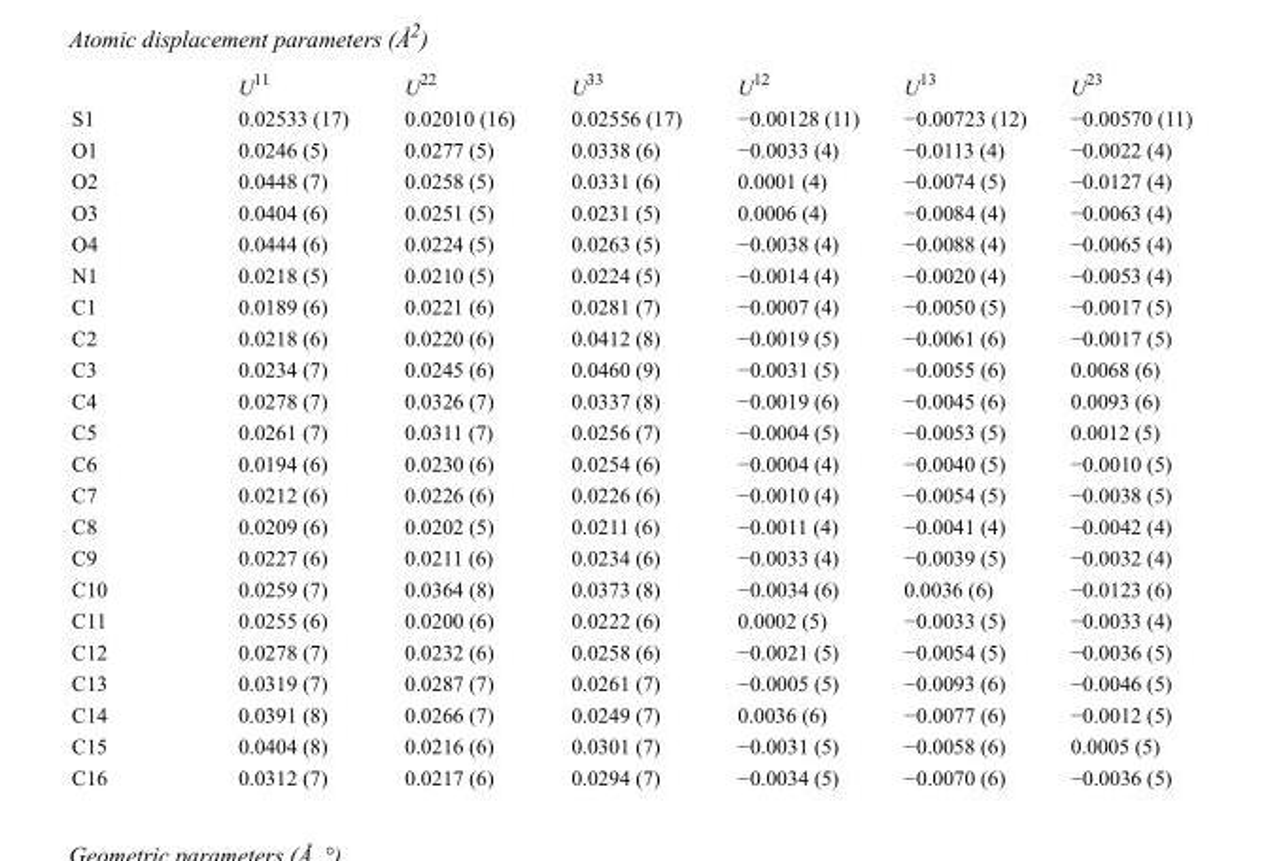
<table><thead><tr><td></td><td>U<sup>11</sup></td><td>U<sup>22</sup></td><td>U<sup>33</sup></td><td>U<sup>12</sup></td><td>U<sup>13</sup></td><td>U<sup>23</sup></td></tr></thead><tbody><tr><td>S1</td><td>0.02533 (17)</td><td>0.02010 (16)</td><td>0.02556 (17)</td><td>−0.00128 (11)</td><td>−0.00723 (12)</td><td>−0.00570 (11)</td></tr><tr><td>O1</td><td>0.0246 (5)</td><td>0.0277 (5)</td><td>0.0338 (6)</td><td>−0.0033 (4)</td><td>−0.0113 (4)</td><td>−0.0022 (4)</td></tr><tr><td>O2</td><td>0.0448 (7)</td><td>0.0258 (5)</td><td>0.0331 (6)</td><td>0.0001 (4)</td><td>−0.0074 (5)</td><td>−0.0127 (4)</td></tr><tr><td>O3</td><td>0.0404 (6)</td><td>0.0251 (5)</td><td>0.0231 (5)</td><td>0.0006 (4)</td><td>−0.0084 (4)</td><td>−0.0063 (4)</td></tr><tr><td>O4</td><td>0.0444 (6)</td><td>0.0224 (5)</td><td>0.0263 (5)</td><td>−0.0038 (4)</td><td>−0.0088 (4)</td><td>−0.0065 (4)</td></tr><tr><td>N1</td><td>0.0218 (5)</td><td>0.0210 (5)</td><td>0.0224 (5)</td><td>−0.0014 (4)</td><td>−0.0020 (4)</td><td>−0.0053 (4)</td></tr><tr><td>C1</td><td>0.0189 (6)</td><td>0.0221 (6)</td><td>0.0281 (7)</td><td>−0.0007 (4)</td><td>−0.0050 (5)</td><td>−0.0017 (5)</td></tr><tr><td>C2</td><td>0.0218 (6)</td><td>0.0220 (6)</td><td>0.0412 (8)</td><td>−0.0019 (5)</td><td>−0.0061 (6)</td><td>−0.0017 (5)</td></tr><tr><td>C3</td><td>0.0234 (7)</td><td>0.0245 (6)</td><td>0.0460 (9)</td><td>−0.0031 (5)</td><td>−0.0055 (6)</td><td>0.0068 (6)</td></tr><tr><td>C4</td><td>0.0278 (7)</td><td>0.0326 (7)</td><td>0.0337 (8)</td><td>−0.0019 (6)</td><td>−0.0045 (6)</td><td>0.0093 (6)</td></tr><tr><td>C5</td><td>0.0261 (7)</td><td>0.0311 (7)</td><td>0.0256 (7)</td><td>−0.0004 (5)</td><td>−0.0053 (5)</td><td>0.0012 (5)</td></tr><tr><td>C6</td><td>0.0194 (6)</td><td>0.0230 (6)</td><td>0.0254 (6)</td><td>−0.0004 (4)</td><td>−0.0040 (5)</td><td>−0.0010 (5)</td></tr><tr><td>C7</td><td>0.0212 (6)</td><td>0.0226 (6)</td><td>0.0226 (6)</td><td>−0.0010 (4)</td><td>−0.0054 (5)</td><td>−0.0038 (5)</td></tr><tr><td>C8</td><td>0.0209 (6)</td><td>0.0202 (5)</td><td>0.0211 (6)</td><td>−0.0011 (4)</td><td>−0.0041 (4)</td><td>−0.0042 (4)</td></tr><tr><td>C9</td><td>0.0227 (6)</td><td>0.0211 (6)</td><td>0.0234 (6)</td><td>−0.0033 (4)</td><td>−0.0039 (5)</td><td>−0.0032 (4)</td></tr><tr><td>C10</td><td>0.0259 (7)</td><td>0.0364 (8)</td><td>0.0373 (8)</td><td>−0.0034 (6)</td><td>0.0036 (6)</td><td>−0.0123 (6)</td></tr><tr><td>C11</td><td>0.0255 (6)</td><td>0.0200 (6)</td><td>0.0222 (6)</td><td>0.0002 (5)</td><td>−0.0033 (5)</td><td>−0.0033 (4)</td></tr><tr><td>C12</td><td>0.0278 (7)</td><td>0.0232 (6)</td><td>0.0258 (6)</td><td>−0.0021 (5)</td><td>−0.0054 (5)</td><td>−0.0036 (5)</td></tr><tr><td>C13</td><td>0.0319 (7)</td><td>0.0287 (7)</td><td>0.0261 (7)</td><td>−0.0005 (5)</td><td>−0.0093 (6)</td><td>−0.0046 (5)</td></tr><tr><td>C14</td><td>0.0391 (8)</td><td>0.0266 (7)</td><td>0.0249 (7)</td><td>0.0036 (6)</td><td>−0.0077 (6)</td><td>−0.0012 (5)</td></tr><tr><td>C15</td><td>0.0404 (8)</td><td>0.0216 (6)</td><td>0.0301 (7)</td><td>−0.0031 (5)</td><td>−0.0058 (6)</td><td>0.0005 (5)</td></tr><tr><td>C16</td><td>0.0312 (7)</td><td>0.0217 (6)</td><td>0.0294 (7)</td><td>−0.0034 (5)</td><td>−0.0070 (6)</td><td>−0.0036 (5)</td></tr></tbody></table>